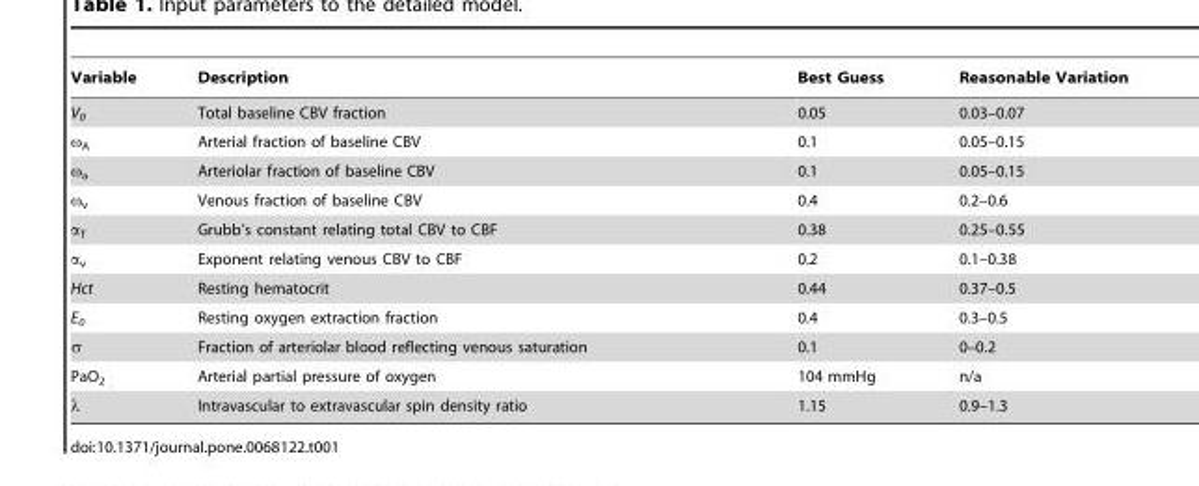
<table><thead><tr><td>Variable</td><td>Description</td><td>Best Guess</td><td>Reasonable Variation</td></tr></thead><tbody><tr><td>V<sub>0</sub></td><td>Total baseline CBV fraction</td><td>0.05</td><td>0.03–0.07</td></tr><tr><td>ω<sub>A</sub></td><td>Arterial fraction of baseline CBV</td><td>0.1</td><td>0.05–0.15</td></tr><tr><td>ω<sub>a</sub></td><td>Arteriolar fraction of baseline CBV</td><td>0.1</td><td>0.05–0.15</td></tr><tr><td>ω<sub>v</sub></td><td>Venous fraction of baseline CBV</td><td>0.4</td><td>0.2–0.6</td></tr><tr><td>α<sub>T</sub></td><td>Grubb’s constant relating total CBV to CBF</td><td>0.38</td><td>0.25–0.55</td></tr><tr><td>α<sub>v</sub></td><td>Exponent relating venous CBV to CBF</td><td>0.2</td><td>0.1–0.38</td></tr><tr><td>Hct</td><td>Resting hematocrit</td><td>0.44</td><td>0.37–0.5</td></tr><tr><td>E<sub>0</sub></td><td>Resting oxygen extraction fraction</td><td>0.4</td><td>0.3–0.5</td></tr><tr><td>σ</td><td>Fraction of arteriolar blood reflecting venous saturation</td><td>0.1</td><td>0–0.2</td></tr><tr><td>PaO<sub>2</sub></td><td>Arterial partial pressure of oxygen</td><td>104 mmHg</td><td>n/a</td></tr><tr><td>λ</td><td>Intravascular to extravascular spin density ratio</td><td>1.15</td><td>0.9–1.3</td></tr></tbody></table>